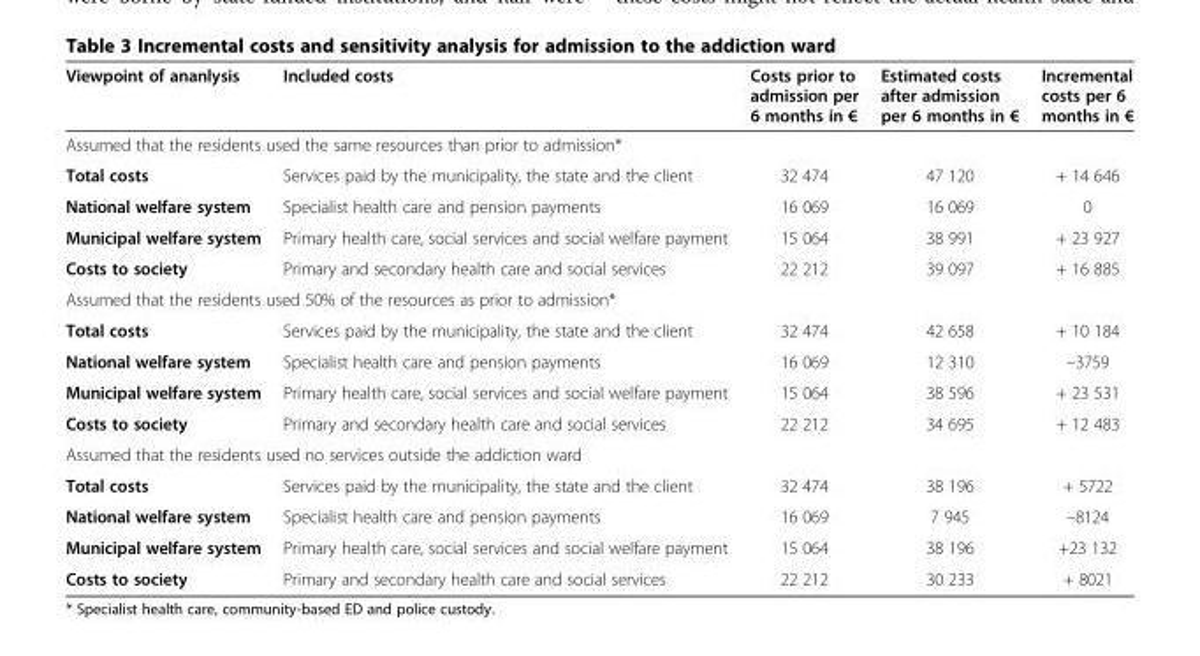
<table><thead><tr><td>Viewpoint of ananlysis</td><td>Included costs</td><td>Costs prior to admission per 6 months in €</td><td>Estimated costs after admission per 6 months in €</td><td>Incremental costs per 6 months in €</td></tr></thead><tbody><tr><td colspan="5">Assumed that the residents used the same resources than prior to admission*</td></tr><tr><td>Total costs</td><td>Services paid by the municipality, the state and the client</td><td>32 474</td><td>47 120</td><td>+ 14 646</td></tr><tr><td>National welfare system</td><td>Specialist health care and pension payments</td><td>16 069</td><td>16 069</td><td>0</td></tr><tr><td>Municipal welfare system</td><td>Primary health care, social services and social welfare payment</td><td>15 064</td><td>38 991</td><td>+ 23 927</td></tr><tr><td>Costs to society</td><td>Primary and secondary health care and social services</td><td>22 212</td><td>39 097</td><td>+ 16 885</td></tr><tr><td colspan="5">Assumed that the residents used 50% of the resources as prior to admission*</td></tr><tr><td>Total costs</td><td>Services paid by the municipality, the state and the client</td><td>32 474</td><td>42 658</td><td>+ 10 184</td></tr><tr><td>National welfare system</td><td>Specialist health care and pension payments</td><td>16 069</td><td>12 310</td><td>–3759</td></tr><tr><td>Municipal welfare system</td><td>Primary health care, social services and social welfare payment</td><td>15 064</td><td>38 596</td><td>+ 23 531</td></tr><tr><td>Costs to society</td><td>Primary and secondary health care and social services</td><td>22 212</td><td>34 695</td><td>+ 12 483</td></tr><tr><td colspan="5">Assumed that the residents used no services outside the addiction ward</td></tr><tr><td>Total costs</td><td>Services paid by the municipality, the state and the client</td><td>32 474</td><td>38 196</td><td>+ 5722</td></tr><tr><td>National welfare system</td><td>Specialist health care and pension payments</td><td>16 069</td><td>7 945</td><td>–8124</td></tr><tr><td>Municipal welfare system</td><td>Primary health care, social services and social welfare payment</td><td>15 064</td><td>38 196</td><td>+23 132</td></tr><tr><td>Costs to society</td><td>Primary and secondary health care and social services</td><td>22 212</td><td>30 233</td><td>+ 8021</td></tr></tbody></table>